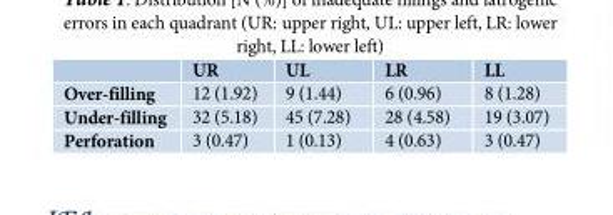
<table><thead><tr><td></td><td>UR</td><td>UL</td><td>LR</td><td>LL</td></tr></thead><tbody><tr><td>Over-filling</td><td>12 (1.92)</td><td>9 (1.44)</td><td>6 (0.96)</td><td>8 (1.28)</td></tr><tr><td>Under-filling</td><td>32 (5.18)</td><td>45 (7.28)</td><td>28 (4.58)</td><td>19 (3.07)</td></tr><tr><td>Perforation</td><td>3 (0.47)</td><td>1 (0.13)</td><td>4 (0.63)</td><td>3 (0.47)</td></tr></tbody></table>